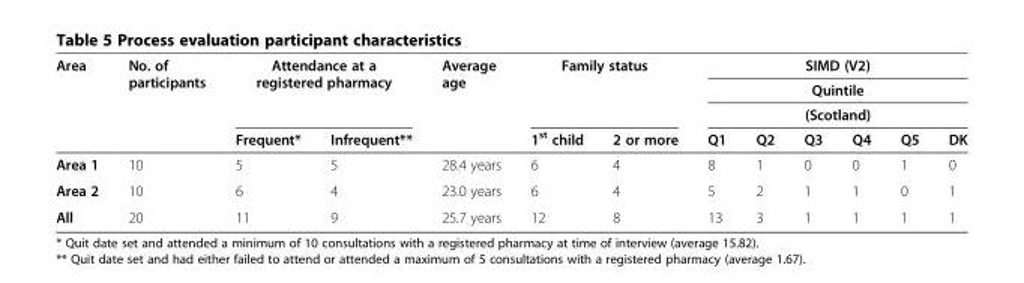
<table><thead><tr><td rowspan="4">Area</td><td rowspan="4">No. of participants</td><td rowspan="3" colspan="2">Attendance at a registered pharmacy</td><td rowspan="4">Average age</td><td rowspan="3" colspan="2">Family status</td><td rowspan="3" colspan="6">SIMD (V2) Quintile (Scotland)</td></tr><tr></tr><tr></tr><tr><td>Frequent*</td><td>Infrequent**</td><td>1<sup>st</sup> child</td><td>2 or more</td><td>Q1</td><td>Q2</td><td>Q3</td><td>Q4</td><td>Q5</td><td>DK</td></tr></thead><tbody><tr><td>Area 1</td><td>10</td><td>5</td><td>5</td><td>28.4 years</td><td>6</td><td>4</td><td>8</td><td>1</td><td>0</td><td>0</td><td>1</td><td>0</td></tr><tr><td>Area 2</td><td>10</td><td>6</td><td>4</td><td>23.0 years</td><td>6</td><td>4</td><td>5</td><td>2</td><td>1</td><td>1</td><td>0</td><td>1</td></tr><tr><td>All</td><td>20</td><td>11</td><td>9</td><td>25.7 years</td><td>12</td><td>8</td><td>13</td><td>3</td><td>1</td><td>1</td><td>1</td><td>1</td></tr></tbody></table>